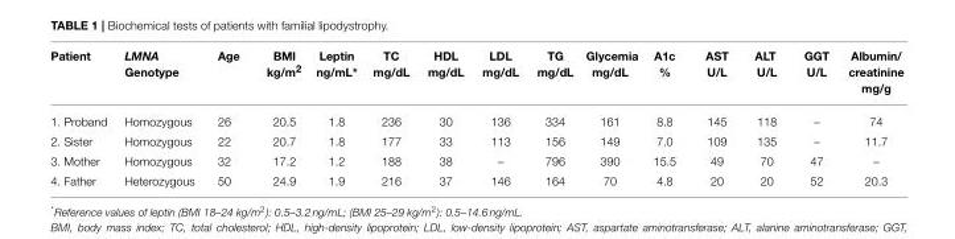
<table><thead><tr><td>Patient</td><td>LMNA Genotype</td><td>Age</td><td>BMI kg/m<sup>2</sup></td><td>Leptin ng/mL*</td><td>TC mg/dL</td><td>HDL mg/dL</td><td>LDL mg/dL</td><td>TG mg/dL</td><td>Glycemia mg/dL</td><td>A1c %</td><td>AST U/L</td><td>ALT U/L</td><td>GGT U/L</td><td>Albumin/ creatinine mg/g</td></tr></thead><tbody><tr><td>1. Proband</td><td>Homozygous</td><td>26</td><td>20.5</td><td>1.8</td><td>236</td><td>30</td><td>136</td><td>334</td><td>161</td><td>8.8</td><td>145</td><td>118</td><td>–</td><td>74</td></tr><tr><td>2. Sister</td><td>Homozygous</td><td>22</td><td>20.7</td><td>1.8</td><td>177</td><td>33</td><td>113</td><td>156</td><td>149</td><td>7.0</td><td>109</td><td>135</td><td>–</td><td>11.7</td></tr><tr><td>3. Mother</td><td>Homozygous</td><td>32</td><td>17.2</td><td>1.2</td><td>188</td><td>38</td><td>–</td><td>796</td><td>390</td><td>15.5</td><td>49</td><td>70</td><td>47</td><td>–</td></tr><tr><td>4. Father</td><td>Heterozygous</td><td>50</td><td>24.9</td><td>1.9</td><td>216</td><td>37</td><td>146</td><td>164</td><td>70</td><td>4.8</td><td>20</td><td>20</td><td>52</td><td>20.3</td></tr></tbody></table>